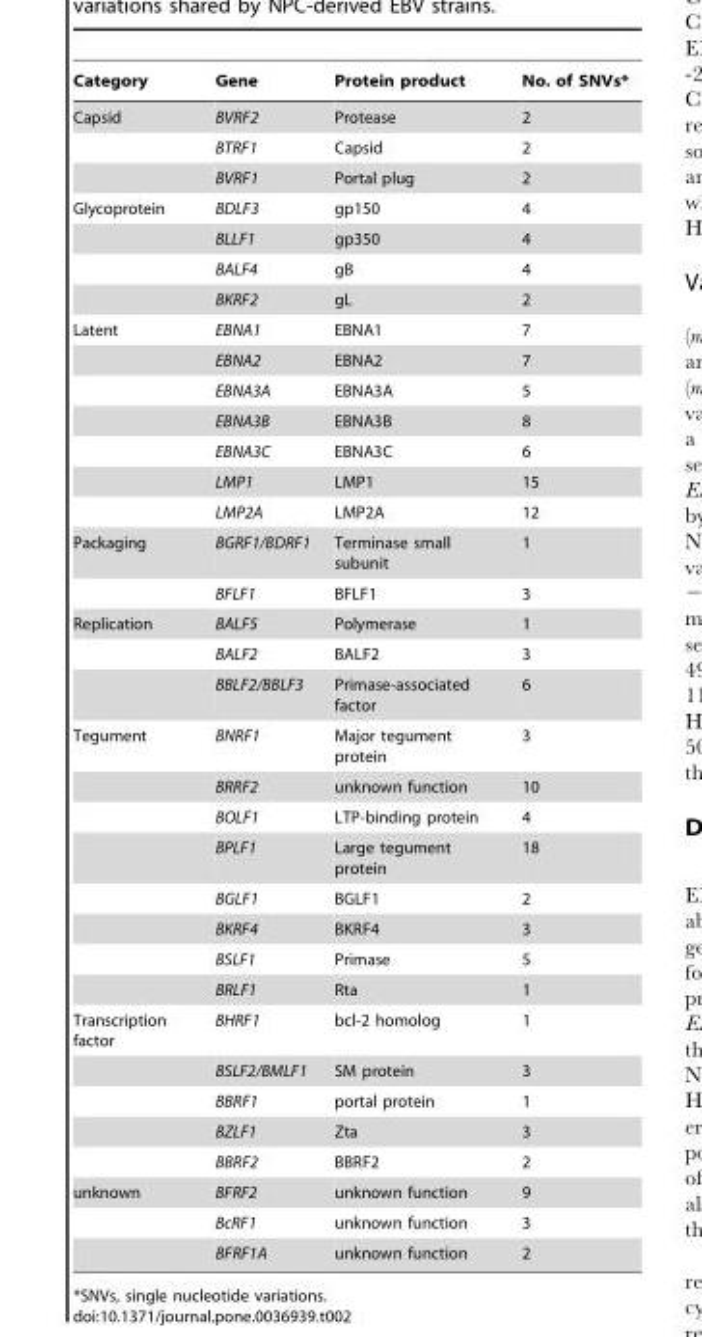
<table><thead><tr><td>Category</td><td>Gene</td><td>Protein product</td><td>No. of SNVs*</td></tr></thead><tbody><tr><td rowspan="3">Capsid</td><td>BVRF2</td><td>Protease</td><td>2</td></tr><tr><td>BTRF1</td><td>Capsid</td><td>2</td></tr><tr><td>BVRF1</td><td>Portal plug</td><td>2</td></tr><tr><td rowspan="4">Glycoprotein</td><td>BDLF3</td><td>gp150</td><td>4</td></tr><tr><td>BLLF1</td><td>gp350</td><td>4</td></tr><tr><td>BALF4</td><td>gB</td><td>4</td></tr><tr><td>BKRF2</td><td>gL</td><td>2</td></tr><tr><td rowspan="7">Latent</td><td>EBNA1</td><td>EBNA1</td><td>7</td></tr><tr><td>EBNA2</td><td>EBNA2</td><td>7</td></tr><tr><td>EBNA3A</td><td>EBNA3A</td><td>5</td></tr><tr><td>EBNA3B</td><td>EBNA3B</td><td>8</td></tr><tr><td>EBNA3C</td><td>EBNA3C</td><td>6</td></tr><tr><td>LMP1</td><td>LMP1</td><td>15</td></tr><tr><td>LMP2A</td><td>LMP2A</td><td>12</td></tr><tr><td rowspan="2">Packaging</td><td>BGRF1/BDRF1</td><td>Terminase small subunit</td><td>1</td></tr><tr><td>BFLF1</td><td>BFLF1</td><td>3</td></tr><tr><td rowspan="3">Replication</td><td>BALF5</td><td>Polymerase</td><td>1</td></tr><tr><td>BALF2</td><td>BALF2</td><td>3</td></tr><tr><td>BBLF2/BBLF3</td><td>Primase-associated factor</td><td>6</td></tr><tr><td rowspan="8">Tegument</td><td>BNRF1</td><td>Major tegument protein</td><td>3</td></tr><tr><td>BRRF2</td><td>unknown function</td><td>10</td></tr><tr><td>BOLF1</td><td>LTP-binding protein</td><td>4</td></tr><tr><td>BPLF1</td><td>Large tegument protein</td><td>18</td></tr><tr><td>BGLF1</td><td>BGLF1</td><td>2</td></tr><tr><td>BKRF4</td><td>BKRF4</td><td>3</td></tr><tr><td>BSLF1</td><td>Primase</td><td>5</td></tr><tr><td>BRLF1</td><td>Rta</td><td>1</td></tr><tr><td rowspan="5">Transcription factor</td><td>BHRF1</td><td>bcl-2 homolog</td><td>1</td></tr><tr><td>BSLF2/BMLF1</td><td>SM protein</td><td>3</td></tr><tr><td>BBRF1</td><td>portal protein</td><td>1</td></tr><tr><td>BZLF1</td><td>Zta</td><td>3</td></tr><tr><td>BBRF2</td><td>BBRF2</td><td>2</td></tr><tr><td rowspan="3">unknown</td><td>BFRF2</td><td>unknown function</td><td>9</td></tr><tr><td>BcRF1</td><td>unknown function</td><td>3</td></tr><tr><td>BFRF1A</td><td>unknown function</td><td>2</td></tr></tbody></table>